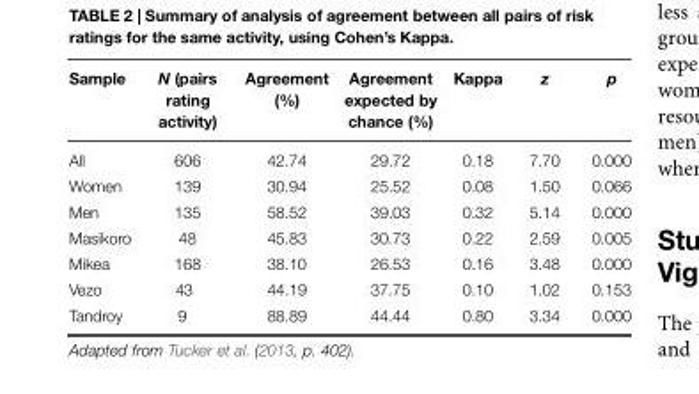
<table><thead><tr><td>Sample</td><td>N (pairs rating activity)</td><td>Agreement (%)</td><td>Agreement expected by chance (%)</td><td>Kappa</td><td>z</td><td>p</td></tr></thead><tbody><tr><td>All</td><td>606</td><td>42.74</td><td>29.72</td><td>0.18</td><td>7.70</td><td>0.000</td></tr><tr><td>Women</td><td>139</td><td>30.94</td><td>25.52</td><td>0.08</td><td>1.50</td><td>0.066</td></tr><tr><td>Men</td><td>135</td><td>58.52</td><td>39.03</td><td>0.32</td><td>5.14</td><td>0.000</td></tr><tr><td>Masikoro</td><td>48</td><td>45.83</td><td>30.73</td><td>0.22</td><td>2.59</td><td>0.005</td></tr><tr><td>Mikea</td><td>168</td><td>38.10</td><td>26.53</td><td>0.16</td><td>3.48</td><td>0.000</td></tr><tr><td>Vezo</td><td>43</td><td>44.19</td><td>37.75</td><td>0.10</td><td>1.02</td><td>0.153</td></tr><tr><td>Tandroy</td><td>9</td><td>88.89</td><td>44.44</td><td>0.80</td><td>3.34</td><td>0.000</td></tr></tbody></table>